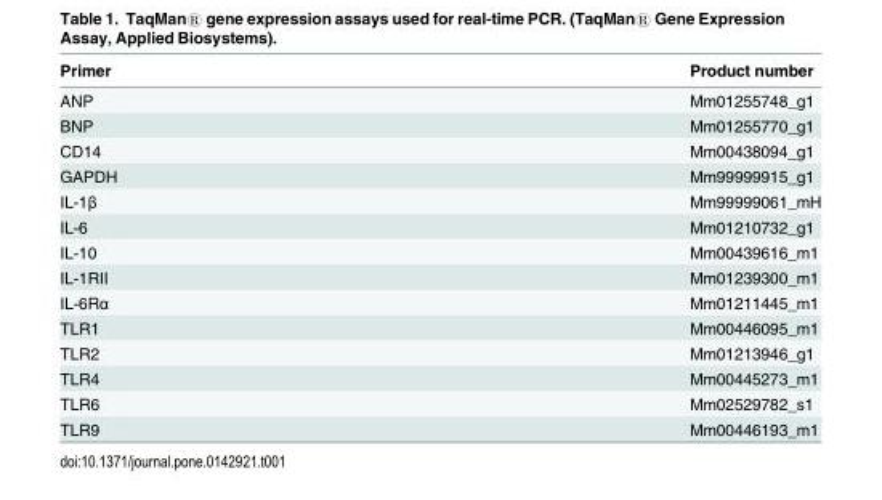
<table><thead><tr><td>Primer</td><td>Product number</td></tr></thead><tbody><tr><td>ANP</td><td>Mm01255748_g1</td></tr><tr><td>BNP</td><td>Mm01255770_g1</td></tr><tr><td>CD14</td><td>Mm00438094_g1</td></tr><tr><td>GAPDH</td><td>Mm99999915_g1</td></tr><tr><td>IL-1β</td><td>Mm99999061_mH</td></tr><tr><td>IL-6</td><td>Mm01210732_g1</td></tr><tr><td>IL-10</td><td>Mm00439616_m1</td></tr><tr><td>IL-1RII</td><td>Mm01239300_m1</td></tr><tr><td>IL-6Rα</td><td>Mm01211445_m1</td></tr><tr><td>TLR1</td><td>Mm00446095_m1</td></tr><tr><td>TLR2</td><td>Mm01213946_g1</td></tr><tr><td>TLR4</td><td>Mm00445273_m1</td></tr><tr><td>TLR6</td><td>Mm02529782_s1</td></tr><tr><td>TLR9</td><td>Mm00446193_m1</td></tr></tbody></table>